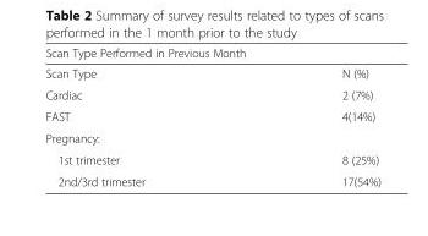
<table><thead><tr><td colspan="2">Scan Type Performed in Previous Month</td></tr><tr><td>Scan Type</td><td>N (%)</td></tr></thead><tbody><tr><td>Cardiac</td><td>2 (7%)</td></tr><tr><td>FAST</td><td>4(14%)</td></tr><tr><td colspan="2">Pregnancy:</td></tr><tr><td>1st trimester</td><td>8 (25%)</td></tr><tr><td>2nd/3rd trimester</td><td>17(54%)</td></tr></tbody></table>